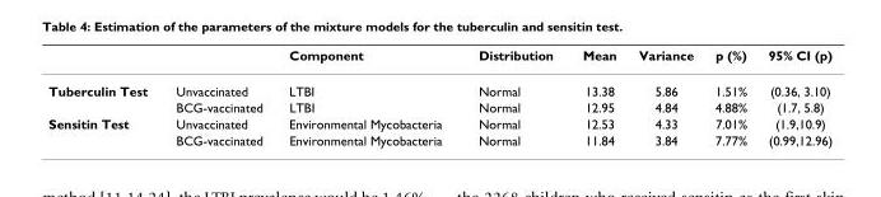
<table><thead><tr><td></td><td></td><td>Component</td><td>Distribution</td><td>Mean</td><td>Variance</td><td>p (%)</td><td>95% CI (p)</td></tr></thead><tbody><tr><td rowspan="2">Tuberculin Test</td><td>Unvaccinated</td><td>LTBI</td><td>Normal</td><td>13.38</td><td>5.86</td><td>1.51%</td><td>(0.36, 3.10)</td></tr><tr><td>BCG-vaccinated</td><td>LTBI</td><td>Normal</td><td>12.95</td><td>4.84</td><td>4.88%</td><td>(1.7, 5.8)</td></tr><tr><td rowspan="2">Sensitin Test</td><td>Unvaccinated</td><td>Environmental Mycobacteria</td><td>Normal</td><td>12.53</td><td>4.33</td><td>7.01%</td><td>(1.9,10.9)</td></tr><tr><td>BCG-vaccinated</td><td>Environmental Mycobacteria</td><td>Normal</td><td>11.84</td><td>3.84</td><td>7.77%</td><td>(0.99,12.96)</td></tr></tbody></table>